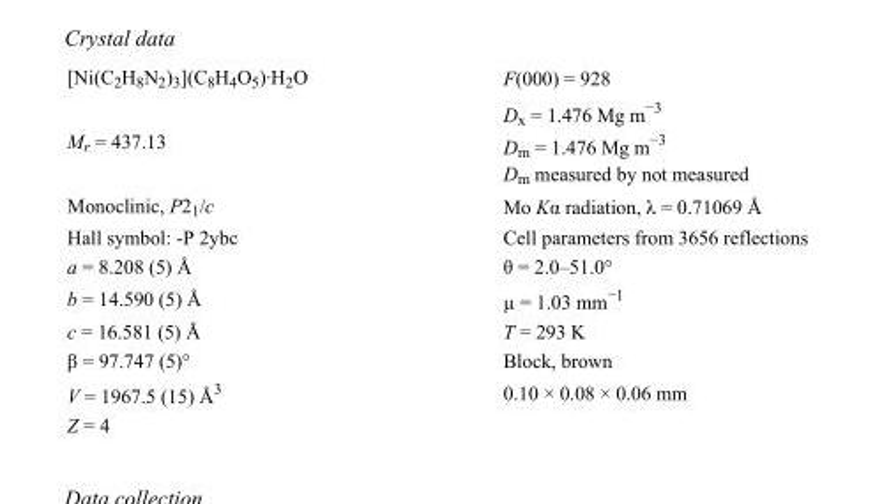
<table><tbody><tr><td>[Ni(C<sub>2</sub>H<sub>8</sub>N<sub>2</sub>)<sub>3</sub>](C<sub>8</sub>H<sub>4</sub>O<sub>5</sub>)·H<sub>2</sub>O</td><td>F(000) = 928</td></tr><tr><td>M<sub>r</sub> = 437.13</td><td>D<sub>x</sub> = 1.476 Mg m<sup>−3</sup> D<sub>m</sub> = 1.476 Mg m<sup>−3</sup> D<sub>m</sub> measured by not measured</td></tr><tr><td>Monoclinic, P2<sub>1</sub>/c</td><td>Mo Kα radiation, λ = 0.71069 Å</td></tr><tr><td>Hall symbol: -P 2ybc</td><td>Cell parameters from 3656 reflections</td></tr><tr><td>a = 8.208 (5) Å</td><td>θ = 2.0–51.0°</td></tr><tr><td>b = 14.590 (5) Å</td><td>µ = 1.03 mm<sup>−1</sup></td></tr><tr><td>c = 16.581 (5) Å</td><td>T = 293 K</td></tr><tr><td>β = 97.747 (5)°</td><td>Block, brown</td></tr><tr><td>V = 1967.5 (15) Å<sup>3</sup></td><td>0.10 × 0.08 × 0.06 mm</td></tr><tr><td>Z = 4</td><td></td></tr></tbody></table>